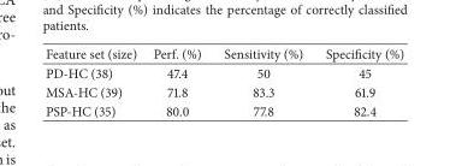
<table><thead><tr><td>Feature set (size)</td><td>Perf. (%)</td><td>Sensitivity (%)</td><td>Specificity (%)</td></tr></thead><tbody><tr><td>PD-HC (38)</td><td>47.4</td><td>50</td><td>45</td></tr><tr><td>MSA-HC (39)</td><td>71.8</td><td>83.3</td><td>61.9</td></tr><tr><td>PSP-HC (35)</td><td>80.0</td><td>77.8</td><td>82.4</td></tr></tbody></table>